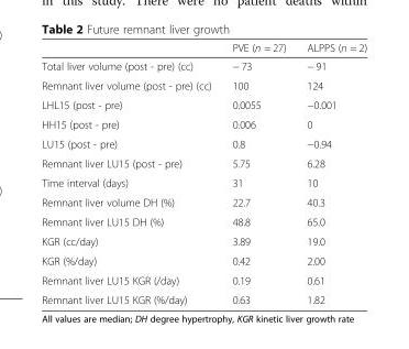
<table><thead><tr><td></td><td>PVE (n = 27)</td><td>ALPPS (n = 2)</td></tr></thead><tbody><tr><td>Total liver volume (post - pre) (cc)</td><td>− 73</td><td>− 91</td></tr><tr><td>Remnant liver volume (post - pre) (cc)</td><td>100</td><td>124</td></tr><tr><td>LHL15 (post - pre)</td><td>0.0055</td><td>−0.001</td></tr><tr><td>HH15 (post - pre)</td><td>0.006</td><td>0</td></tr><tr><td>LU15 (post - pre)</td><td>0.8</td><td>−0.94</td></tr><tr><td>Remnant liver LU15 (post - pre)</td><td>5.75</td><td>6.28</td></tr><tr><td>Time interval (days)</td><td>31</td><td>10</td></tr><tr><td>Remnant liver volume DH (%)</td><td>22.7</td><td>40.3</td></tr><tr><td>Remnant liver LU15 DH (%)</td><td>48.8</td><td>65.0</td></tr><tr><td>KGR (cc/day)</td><td>3.89</td><td>19.0</td></tr><tr><td>KGR (%/day)</td><td>0.42</td><td>2.00</td></tr><tr><td>Remnant liver LU15 KGR (/day)</td><td>0.19</td><td>0.61</td></tr><tr><td>Remnant liver LU15 KGR (%/day)</td><td>0.63</td><td>1.82</td></tr></tbody></table>